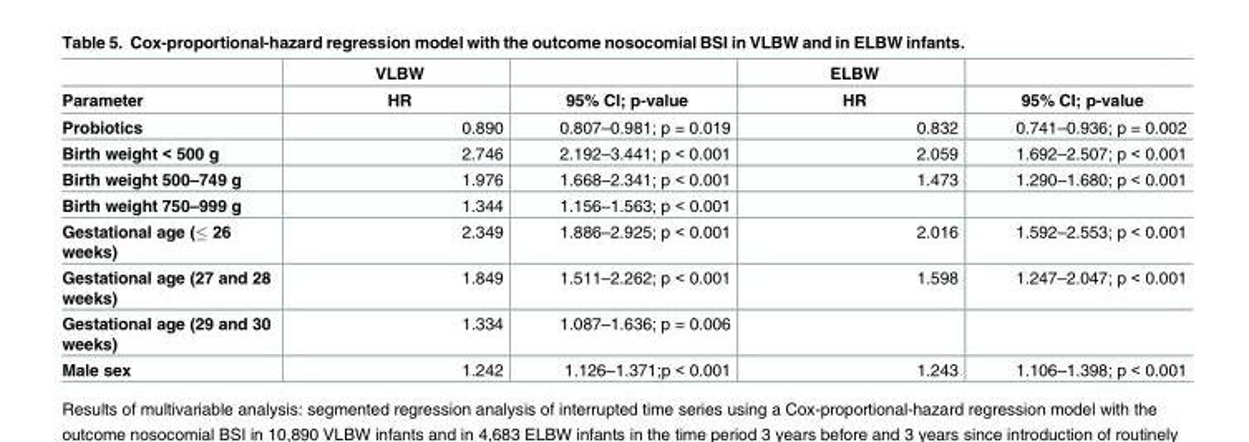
<table><thead><tr><td rowspan="2">Parameter</td><td rowspan="2">VLBW HR</td><td rowspan="2">95% CI; p-value</td><td rowspan="2">ELBW HR</td><td rowspan="2">95% CI; p-value</td></tr><tr></tr></thead><tbody><tr><td>Probiotics</td><td>0.890</td><td>0.807–0.981; p = 0.019</td><td>0.832</td><td>0.741–0.936; p = 0.002</td></tr><tr><td>Birth weight &lt; 500 g</td><td>2.746</td><td>2.192–3.441; p &lt; 0.001</td><td>2.059</td><td>1.692–2.507; p &lt; 0.001</td></tr><tr><td>Birth weight 500–749 g</td><td>1.976</td><td>1.668–2.341; p &lt; 0.001</td><td>1.473</td><td>1.290–1.680; p &lt; 0.001</td></tr><tr><td>Birth weight 750–999 g</td><td>1.344</td><td>1.156–1.563; p &lt; 0.001</td><td></td><td></td></tr><tr><td>Gestational age (≤ 26 weeks)</td><td>2.349</td><td>1.886–2.925; p &lt; 0.001</td><td>2.016</td><td>1.592–2.553; p &lt; 0.001</td></tr><tr><td>Gestational age (27 and 28 weeks)</td><td>1.849</td><td>1.511–2.262; p &lt; 0.001</td><td>1.598</td><td>1.247–2.047; p &lt; 0.001</td></tr><tr><td>Gestational age (29 and 30 weeks)</td><td>1.334</td><td>1.087–1.636; p = 0.006</td><td></td><td></td></tr><tr><td>Male sex</td><td>1.242</td><td>1.126–1.371;p &lt; 0.001</td><td>1.243</td><td>1.106–1.398; p &lt; 0.001</td></tr></tbody></table>